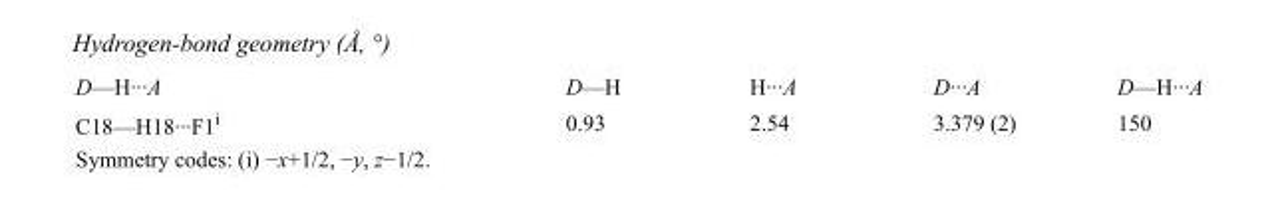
<table><tbody><tr><td>D—H···A</td><td>D—H</td><td>H···A</td><td>D···A</td><td>D—H···A</td></tr><tr><td>C18—H18···F1<sup>i</sup></td><td>0.93</td><td>2.54</td><td>3.379 (2)</td><td>150</td></tr></tbody></table>